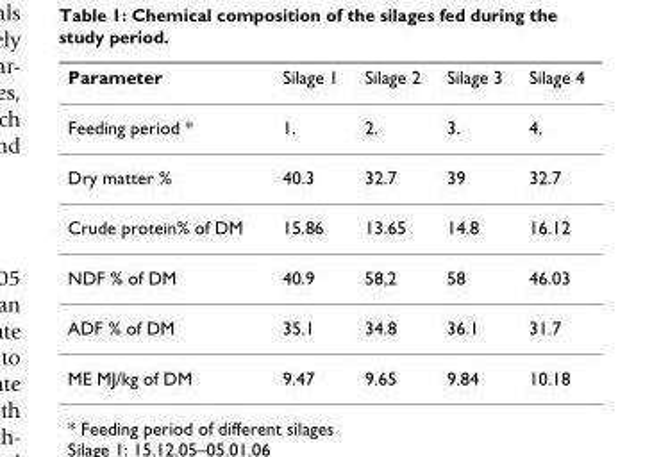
<table><thead><tr><td>Parameter</td><td>Silage 1</td><td>Silage 2</td><td>Silage 3</td><td>Silage 4</td></tr></thead><tbody><tr><td>Feeding period *</td><td>1.</td><td>2.</td><td>3.</td><td>4.</td></tr><tr><td>Dry matter %</td><td>40.3</td><td>32.7</td><td>39</td><td>32.7</td></tr><tr><td>Crude protein% of DM</td><td>15.86</td><td>13.65</td><td>14.8</td><td>16.12</td></tr><tr><td>NDF % of DM</td><td>40.9</td><td>58,2</td><td>58</td><td>46.03</td></tr><tr><td>ADF % of DM</td><td>35.1</td><td>34.8</td><td>36.1</td><td>31.7</td></tr><tr><td>ME MJ/kg of DM</td><td>9.47</td><td>9.65</td><td>9.84</td><td>10.18</td></tr></tbody></table>